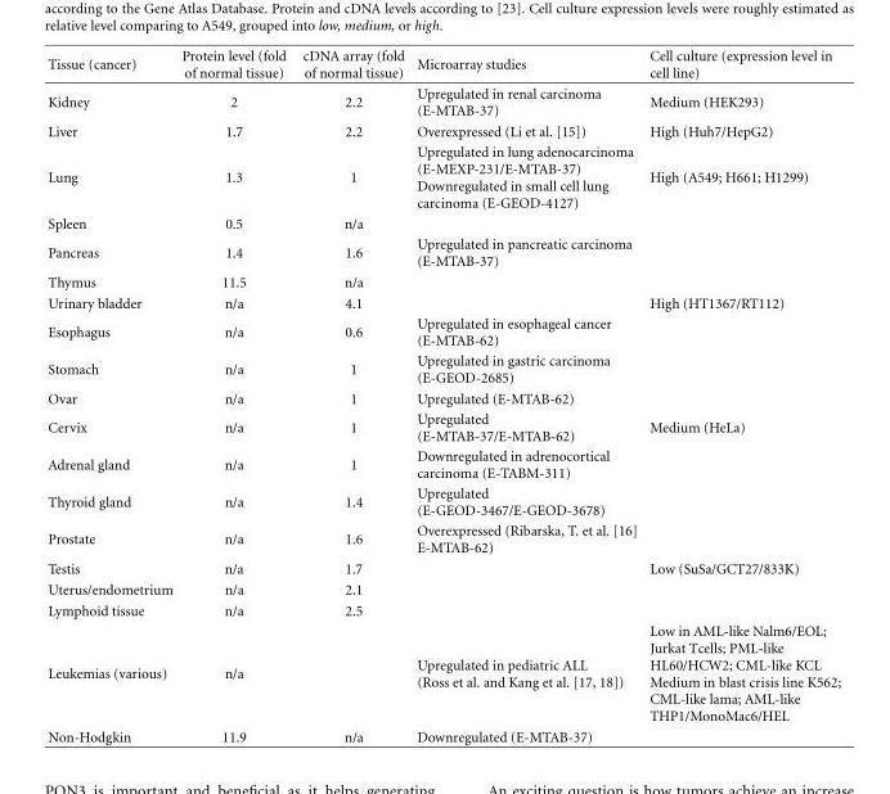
<table><thead><tr><td>Tissue (cancer)</td><td>Protein level (fold of normal tissue)</td><td>cDNA array (fold of normal tissue)</td><td>Microarray studies</td><td>Cell culture (expression level in cell line)</td></tr></thead><tbody><tr><td>Kidney</td><td>2</td><td>2.2</td><td>Upregulated in renal carcinoma (E-MTAB-37)</td><td>Medium (HEK293)</td></tr><tr><td>Liver</td><td>1.7</td><td>2.2</td><td>Overexpressed (Li et al. [15])</td><td>High (Huh7/HepG2)</td></tr><tr><td>Lung</td><td>1.3</td><td>1</td><td>Upregulated in lung adenocarcinoma (E-MEXP-231/E-MTAB-37) Downregulated in small cell lung carcinoma (E-GEOD-4127)</td><td>High (A549; H661; H1299)</td></tr><tr><td>Spleen</td><td>0.5</td><td>n/a</td><td></td><td></td></tr><tr><td>Pancreas</td><td>1.4</td><td>1.6</td><td>Upregulated in pancreatic carcinoma (E-MTAB-37)</td><td></td></tr><tr><td>Thymus</td><td>11.5</td><td>n/a</td><td></td><td></td></tr><tr><td>Urinary bladder</td><td>n/a</td><td>4.1</td><td></td><td>High (HT1367/RT112)</td></tr><tr><td>Esophagus</td><td>n/a</td><td>0.6</td><td>Upregulated in esophageal cancer (E-MTAB-62)</td><td></td></tr><tr><td>Stomach</td><td>n/a</td><td>1</td><td>Upregulated in gastric carcinoma (E-GEOD-2685)</td><td></td></tr><tr><td>Ovar</td><td>n/a</td><td>1</td><td>Upregulated (E-MTAB-62)</td><td></td></tr><tr><td>Cervix</td><td>n/a</td><td>1</td><td>Upregulated (E-MTAB-37/E-MTAB-62)</td><td>Medium (HeLa)</td></tr><tr><td>Adrenal gland</td><td>n/a</td><td>1</td><td>Downregulated in adrenocortical carcinoma (E-TABM-311)</td><td></td></tr><tr><td>Thyroid gland</td><td>n/a</td><td>1.4</td><td>Upregulated (E-GEOD-3467/E-GEOD-3678)</td><td></td></tr><tr><td>Prostate</td><td>n/a</td><td>1.6</td><td>Overexpressed (Ribarska, T. et al. [16] E-MTAB-62)</td><td></td></tr><tr><td>Testis</td><td>n/a</td><td>1.7</td><td></td><td>Low (SuSa/GCT27/833K)</td></tr><tr><td>Uterus/endometrium</td><td>n/a</td><td>2.1</td><td></td><td></td></tr><tr><td>Lymphoid tissue</td><td>n/a</td><td>2.5</td><td></td><td></td></tr><tr><td>Leukemias (various)</td><td>n/a</td><td></td><td>Upregulated in pediatric ALL (Ross et al. and Kang et al. [17, 18])</td><td>Low in AML-like Nalm6/EOL; Jurkat Tcells; PML-like HL60/HCW2; CML-like KCL Medium in blast crisis line K562; CML-like lama; AML-like THP1/MonoMac6/HEL</td></tr><tr><td>Non-Hodgkin</td><td>11.9</td><td>n/a</td><td>Downregulated (E-MTAB-37)</td><td></td></tr></tbody></table>